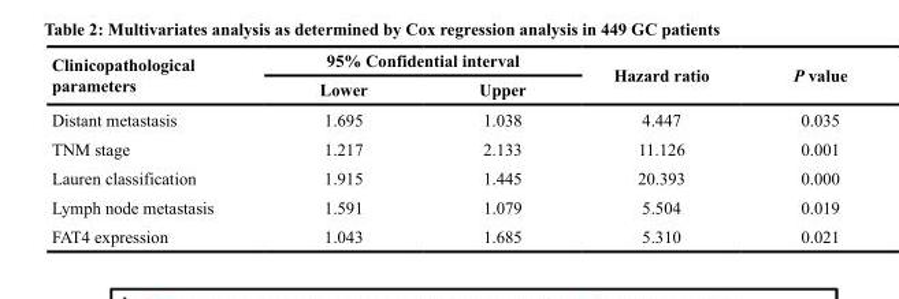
<table><thead><tr><td rowspan="2">Clinicopathological parameters</td><td colspan="2">95% Confidential interval</td><td rowspan="2">Hazard ratio</td><td rowspan="2">P value</td></tr><tr><td>Lower</td><td>Upper</td></tr></thead><tbody><tr><td>Distant metastasis</td><td>1.695</td><td>1.038</td><td>4.447</td><td>0.035</td></tr><tr><td>TNM stage</td><td>1.217</td><td>2.133</td><td>11.126</td><td>0.001</td></tr><tr><td>Lauren classification</td><td>1.915</td><td>1.445</td><td>20.393</td><td>0.000</td></tr><tr><td>Lymph node metastasis</td><td>1.591</td><td>1.079</td><td>5.504</td><td>0.019</td></tr><tr><td>FAT4 expression</td><td>1.043</td><td>1.685</td><td>5.310</td><td>0.021</td></tr></tbody></table>